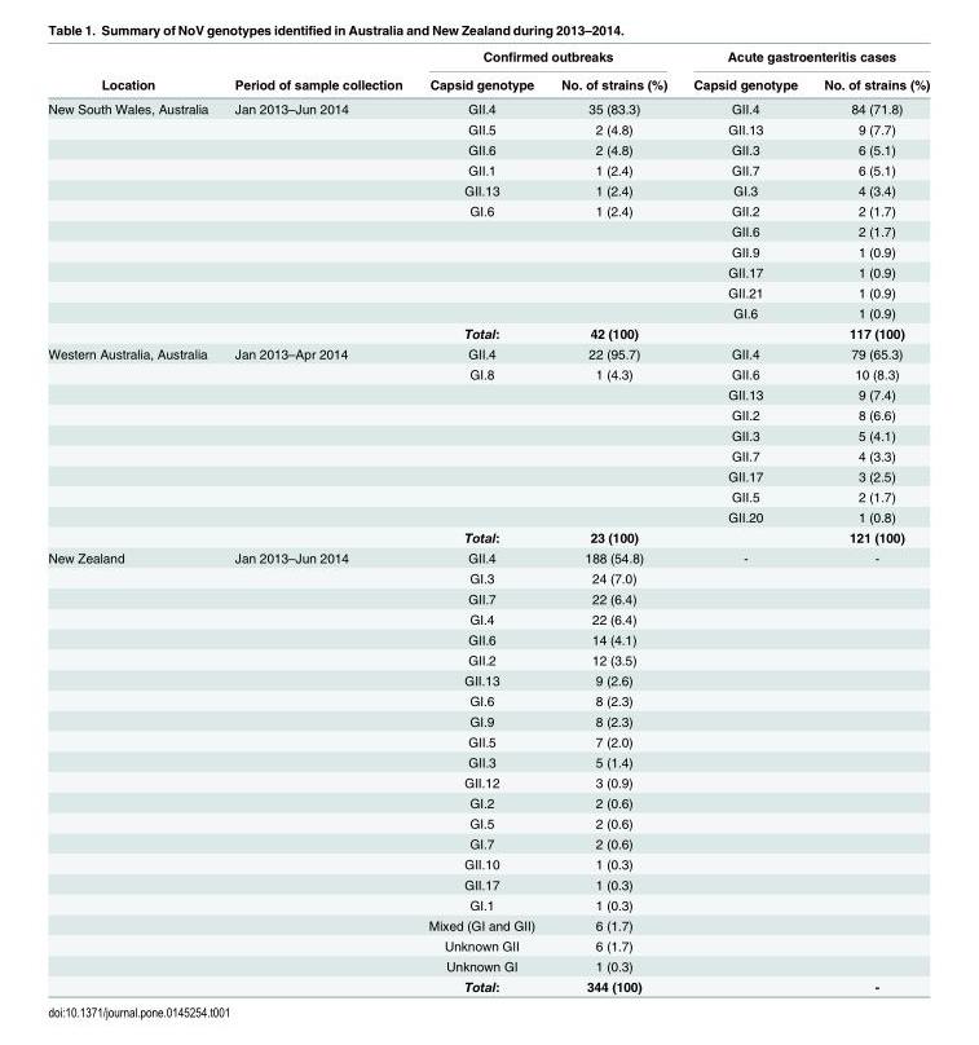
<table><thead><tr><td rowspan="2">Location</td><td rowspan="2">Period of sample collection</td><td colspan="2">Confirmed outbreaks</td><td colspan="2">Acute gastroenteritis cases</td></tr><tr><td>Capsid genotype</td><td>No. of strains (%)</td><td>Capsid genotype</td><td>No. of strains (%)</td></tr></thead><tbody><tr><td rowspan="12">New South Wales, Australia</td><td>Jan 2013–Jun 2014</td><td>GII.4</td><td>35 (83.3)</td><td>GII.4</td><td>84 (71.8)</td></tr><tr><td></td><td>GII.5</td><td>2 (4.8)</td><td>GII.13</td><td>9 (7.7)</td></tr><tr><td></td><td>GII.6</td><td>2 (4.8)</td><td>GII.3</td><td>6 (5.1)</td></tr><tr><td></td><td>GII.1</td><td>1 (2.4)</td><td>GII.7</td><td>6 (5.1)</td></tr><tr><td></td><td>GII.13</td><td>1 (2.4)</td><td>GI.3</td><td>4 (3.4)</td></tr><tr><td></td><td>GI.6</td><td>1 (2.4)</td><td>GII.2</td><td>2 (1.7)</td></tr><tr><td></td><td></td><td></td><td>GII.6</td><td>2 (1.7)</td></tr><tr><td></td><td></td><td></td><td>GII.9</td><td>1 (0.9)</td></tr><tr><td></td><td></td><td></td><td>GII.17</td><td>1 (0.9)</td></tr><tr><td></td><td></td><td></td><td>GII.21</td><td>1 (0.9)</td></tr><tr><td></td><td></td><td></td><td>GI.6</td><td>1 (0.9)</td></tr><tr><td></td><td>Total:</td><td>42 (100)</td><td></td><td>117 (100)</td></tr><tr><td rowspan="10">Western Australia, Australia</td><td>Jan 2013–Apr 2014</td><td>GII.4</td><td>22 (95.7)</td><td>GII.4</td><td>79 (65.3)</td></tr><tr><td></td><td>GI.8</td><td>1 (4.3)</td><td>GII.6</td><td>10 (8.3)</td></tr><tr><td></td><td></td><td></td><td>GII.13</td><td>9 (7.4)</td></tr><tr><td></td><td></td><td></td><td>GII.2</td><td>8 (6.6)</td></tr><tr><td></td><td></td><td></td><td>GII.3</td><td>5 (4.1)</td></tr><tr><td></td><td></td><td></td><td>GII.7</td><td>4 (3.3)</td></tr><tr><td></td><td></td><td></td><td>GII.17</td><td>3 (2.5)</td></tr><tr><td></td><td></td><td></td><td>GII.5</td><td>2 (1.7)</td></tr><tr><td></td><td></td><td></td><td>GII.20</td><td>1 (0.8)</td></tr><tr><td></td><td>Total:</td><td>23 (100)</td><td></td><td>121 (100)</td></tr><tr><td rowspan="22">New Zealand</td><td>Jan 2013–Jun 2014</td><td>GII.4</td><td>188 (54.8)</td><td>-</td><td>-</td></tr><tr><td></td><td>GI.3</td><td>24 (7.0)</td><td></td><td></td></tr><tr><td></td><td>GII.7</td><td>22 (6.4)</td><td></td><td></td></tr><tr><td></td><td>GI.4</td><td>22 (6.4)</td><td></td><td></td></tr><tr><td></td><td>GII.6</td><td>14 (4.1)</td><td></td><td></td></tr><tr><td></td><td>GII.2</td><td>12 (3.5)</td><td></td><td></td></tr><tr><td></td><td>GII.13</td><td>9 (2.6)</td><td></td><td></td></tr><tr><td></td><td>GI.6</td><td>8 (2.3)</td><td></td><td></td></tr><tr><td></td><td>GI.9</td><td>8 (2.3)</td><td></td><td></td></tr><tr><td></td><td>GII.5</td><td>7 (2.0)</td><td></td><td></td></tr><tr><td></td><td>GII.3</td><td>5 (1.4)</td><td></td><td></td></tr><tr><td></td><td>GII.12</td><td>3 (0.9)</td><td></td><td></td></tr><tr><td></td><td>GI.2</td><td>2 (0.6)</td><td></td><td></td></tr><tr><td></td><td>GI.5</td><td>2 (0.6)</td><td></td><td></td></tr><tr><td></td><td>GI.7</td><td>2 (0.6)</td><td></td><td></td></tr><tr><td></td><td>GII.10</td><td>1 (0.3)</td><td></td><td></td></tr><tr><td></td><td>GII.17</td><td>1 (0.3)</td><td></td><td></td></tr><tr><td></td><td>GI.1</td><td>1 (0.3)</td><td></td><td></td></tr><tr><td></td><td>Mixed (GI and GII)</td><td>6 (1.7)</td><td></td><td></td></tr><tr><td></td><td>Unknown GII</td><td>6 (1.7)</td><td></td><td></td></tr><tr><td></td><td>Unknown GI</td><td>1 (0.3)</td><td></td><td></td></tr><tr><td></td><td>Total:</td><td>344 (100)</td><td></td><td>-</td></tr></tbody></table>